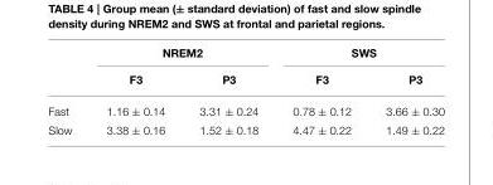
<table><thead><tr><td rowspan="2"></td><td colspan="2">NREM2</td><td colspan="2">SWS</td></tr><tr><td>F3</td><td>P3</td><td>F3</td><td>P3</td></tr></thead><tbody><tr><td>Fast</td><td>1.16 ± 0.14</td><td>3.31 ± 0.24</td><td>0.78 ± 0.12</td><td>3.66 ± 0.30</td></tr><tr><td>Slow</td><td>3.38 ± 0.16</td><td>1.52 ± 0.18</td><td>4.47 ± 0.22</td><td>1.49 ± 0.22</td></tr></tbody></table>